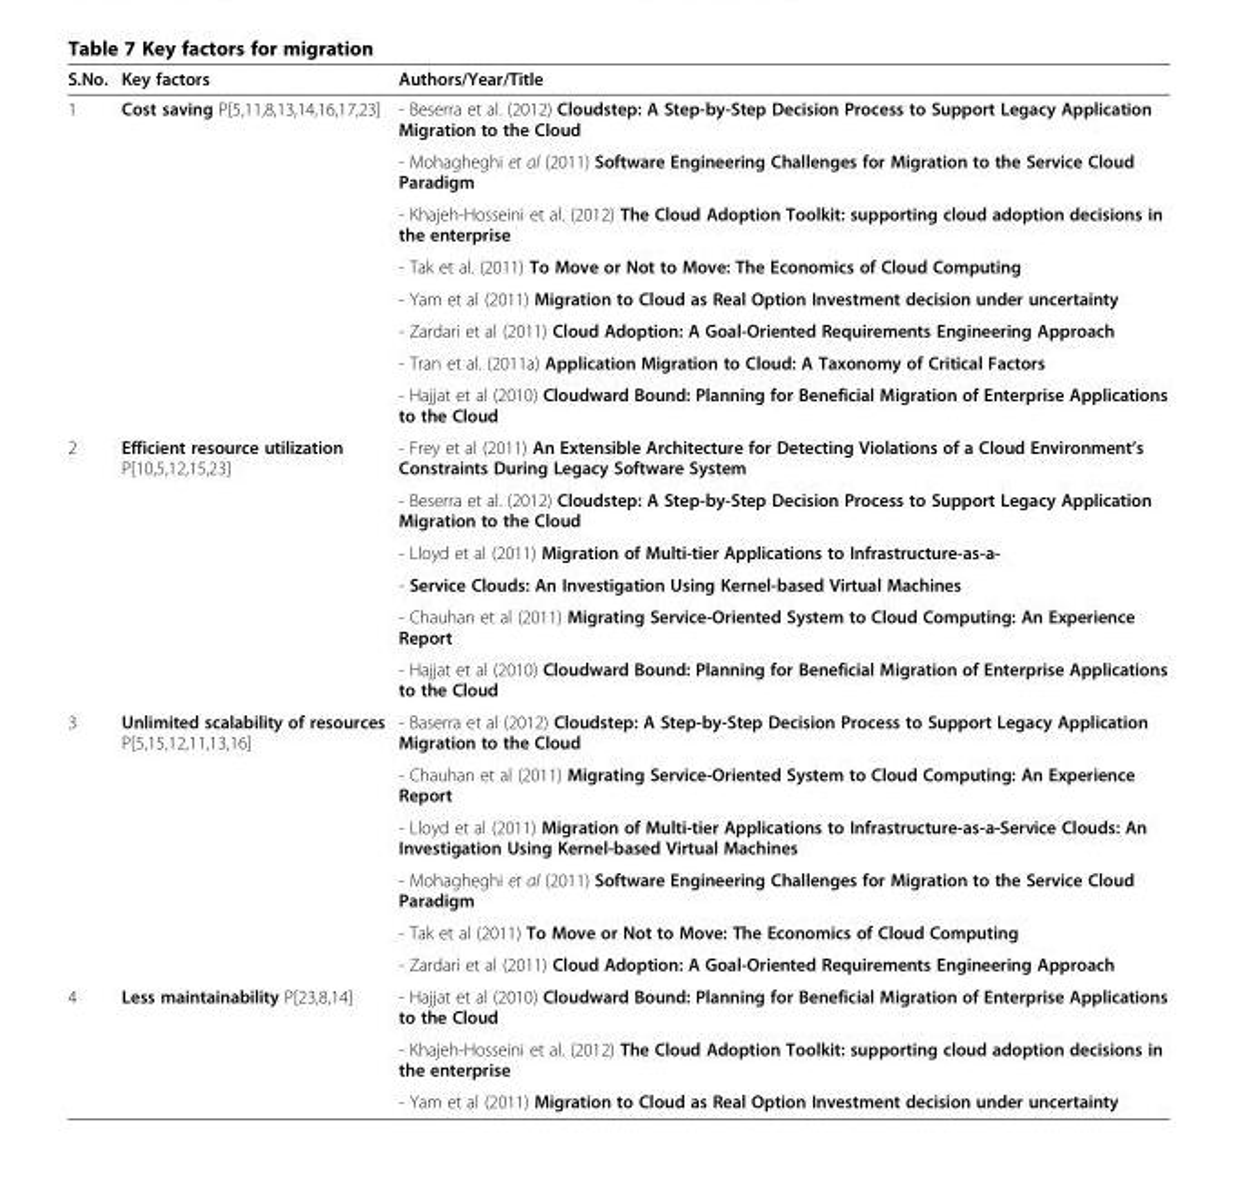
<table><thead><tr><td>S.No.</td><td>Key factors</td><td>Authors/Year/Title</td></tr></thead><tbody><tr><td rowspan="8">1</td><td rowspan="8">Cost saving P[5,11,8,13,14,16,17,23]</td><td>- Beserra et al. (2012) Cloudstep: A Step-by-Step Decision Process to Support Legacy Application Migration to the Cloud</td></tr><tr><td>- Mohagheghi et al (2011) Software Engineering Challenges for Migration to the Service Cloud Paradigm</td></tr><tr><td>- Khajeh-Hosseini et al. (2012) The Cloud Adoption Toolkit: supporting cloud adoption decisions in the enterprise</td></tr><tr><td>- Tak et al. (2011) To Move or Not to Move: The Economics of Cloud Computing</td></tr><tr><td>- Yam et al (2011) Migration to Cloud as Real Option Investment decision under uncertainty</td></tr><tr><td>- Zardari et al (2011) Cloud Adoption: A Goal-Oriented Requirements Engineering Approach</td></tr><tr><td>- Tran et al. (2011a) Application Migration to Cloud: A Taxonomy of Critical Factors</td></tr><tr><td>- Hajjat et al (2010) Cloudward Bound: Planning for Beneficial Migration of Enterprise Applications to the Cloud</td></tr><tr><td rowspan="6">2</td><td rowspan="6">Efficient resource utilization P[10,5,12,15,23]</td><td>- Frey et al (2011) An Extensible Architecture for Detecting Violations of a Cloud Environment’s Constraints During Legacy Software System</td></tr><tr><td>- Beserra et al. (2012) Cloudstep: A Step-by-Step Decision Process to Support Legacy Application Migration to the Cloud</td></tr><tr><td>- Lloyd et al (2011) Migration of Multi-tier Applications to Infrastructure-as-a-</td></tr><tr><td>- Service Clouds: An Investigation Using Kernel-based Virtual Machines</td></tr><tr><td>- Chauhan et al (2011) Migrating Service-Oriented System to Cloud Computing: An Experience Report</td></tr><tr><td>- Hajjat et al (2010) Cloudward Bound: Planning for Beneficial Migration of Enterprise Applications to the Cloud</td></tr><tr><td rowspan="6">3</td><td rowspan="6">Unlimited scalability of resources P[5,15,12,11,13,16]</td><td>- Baserra et al (2012) Cloudstep: A Step-by-Step Decision Process to Support Legacy Application Migration to the Cloud</td></tr><tr><td>- Chauhan et al (2011) Migrating Service-Oriented System to Cloud Computing: An Experience Report</td></tr><tr><td>- Lloyd et al (2011) Migration of Multi-tier Applications to Infrastructure-as-a-Service Clouds: An Investigation Using Kernel-based Virtual Machines</td></tr><tr><td>- Mohagheghi et al (2011) Software Engineering Challenges for Migration to the Service Cloud Paradigm</td></tr><tr><td>- Tak et al (2011) To Move or Not to Move: The Economics of Cloud Computing</td></tr><tr><td>- Zardari et al (2011) Cloud Adoption: A Goal-Oriented Requirements Engineering Approach</td></tr><tr><td rowspan="3">4</td><td rowspan="3">Less maintainability P[23,8,14]</td><td>- Hajjat et al (2010) Cloudward Bound: Planning for Beneficial Migration of Enterprise Applications to the Cloud</td></tr><tr><td>- Khajeh-Hosseini et al. (2012) The Cloud Adoption Toolkit: supporting cloud adoption decisions in the enterprise</td></tr><tr><td>- Yam et al (2011) Migration to Cloud as Real Option Investment decision under uncertainty</td></tr></tbody></table>